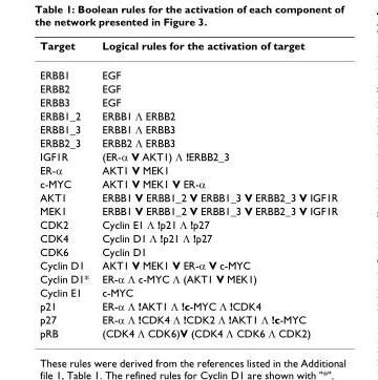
<table><thead><tr><td>Target</td><td>Logical rules for the activation of target</td></tr></thead><tbody><tr><td>ERBB1</td><td>EGF</td></tr><tr><td>ERBB2</td><td>EGF</td></tr><tr><td>ERBB3</td><td>EGF</td></tr><tr><td>ERBB1_2</td><td>ERBB1 Λ ERBB2</td></tr><tr><td>ERBB1_3</td><td>ERBB1 Λ ERBB3</td></tr><tr><td>ERBB2_3</td><td>ERBB2 Λ ERBB3</td></tr><tr><td>IGF1R</td><td>(ER-α V AKT1) Λ !ERBB2_3</td></tr><tr><td>ER-α</td><td>AKT1 V MEK1</td></tr><tr><td>c-MYC</td><td>AKT1 V MEK1 V ER-α</td></tr><tr><td>AKT1</td><td>ERBB1 V ERBB1_2 V ERBB1_3 V ERBB2_3 V IGF1R</td></tr><tr><td>MEK1</td><td>ERBB1 V ERBB1_2 V ERBB1_3 V ERBB2_3 V IGF1R</td></tr><tr><td>CDK2</td><td>Cyclin E1 Λ !p21 Λ !p27</td></tr><tr><td>CDK4</td><td>Cyclin D1 Λ !p21 Λ !p27</td></tr><tr><td>CDK6</td><td>Cyclin D1</td></tr><tr><td>Cyclin D1</td><td>AKT1 V MEK1 V ER-α V c-MYC</td></tr><tr><td>Cyclin D1*</td><td>ER-α Λ c-MYC Λ (AKT1 V MEK1)</td></tr><tr><td>Cyclin E1</td><td>c-MYC</td></tr><tr><td>p21</td><td>ER-α Λ !AKT1 Λ !c-MYC Λ !CDK4</td></tr><tr><td>p27</td><td>ER-α Λ !CDK4 Λ !CDK2 Λ !AKT1 Λ !c-MYC</td></tr><tr><td>pRB</td><td>(CDK4 Λ CDK6)V (CDK4 Λ CDK6 Λ CDK2)</td></tr></tbody></table>